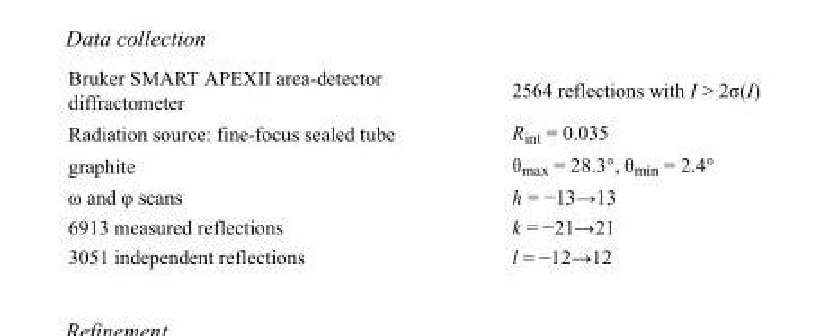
<table><tbody><tr><td>Bruker SMART APEXII area-detector diffractometer</td><td>2564 reflections with I &gt; 2σ(I)</td></tr><tr><td>Radiation source: fine-focus sealed tube</td><td>R<sub>int</sub> = 0.035</td></tr><tr><td>graphite</td><td>θ<sub>max</sub> = 28.3°, θ<sub>min</sub> = 2.4°</td></tr><tr><td>ω and φ scans</td><td>h = −13→13</td></tr><tr><td>6913 measured reflections</td><td>k = −21→21</td></tr><tr><td>3051 independent reflections</td><td>l = −12→12</td></tr></tbody></table>